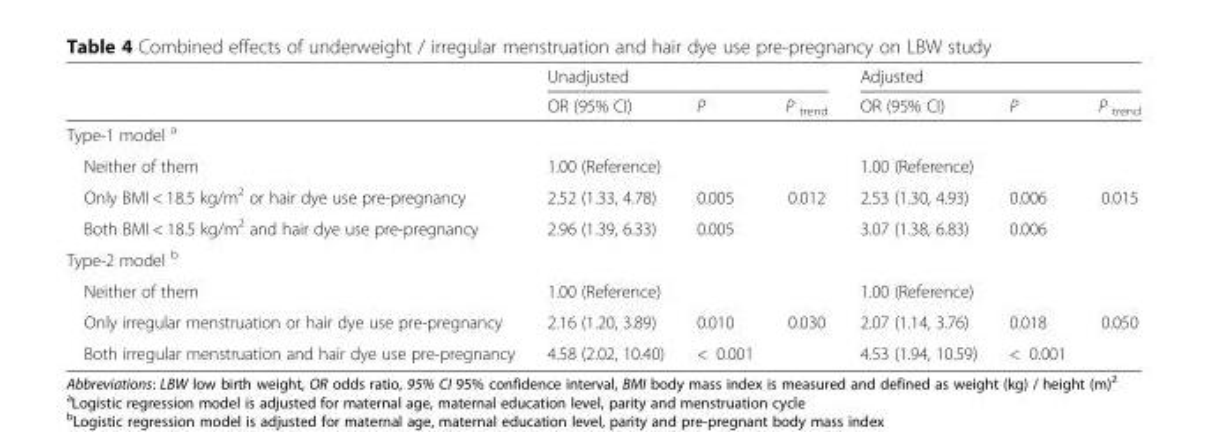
<table><thead><tr><td rowspan="2"></td><td colspan="3">Unadjusted</td><td colspan="3">Adjusted</td></tr><tr><td>OR (95% CI)</td><td>P</td><td>P <sub>trend</sub></td><td>OR (95% CI)</td><td>P</td><td>P <sub>trend</sub></td></tr></thead><tbody><tr><td colspan="7">Type-1 model <sup>a</sup></td></tr><tr><td>Neither of them</td><td>1.00 (Reference)</td><td></td><td></td><td>1.00 (Reference)</td><td></td><td></td></tr><tr><td>Only BMI &lt; 18.5 kg/m<sup>2</sup> or hair dye use pre-pregnancy</td><td>2.52 (1.33, 4.78)</td><td>0.005</td><td>0.012</td><td>2.53 (1.30, 4.93)</td><td>0.006</td><td>0.015</td></tr><tr><td>Both BMI &lt; 18.5 kg/m<sup>2</sup> and hair dye use pre-pregnancy</td><td>2.96 (1.39, 6.33)</td><td>0.005</td><td></td><td>3.07 (1.38, 6.83)</td><td>0.006</td><td></td></tr><tr><td colspan="7">Type-2 model <sup>b</sup></td></tr><tr><td>Neither of them</td><td>1.00 (Reference)</td><td></td><td></td><td>1.00 (Reference)</td><td></td><td></td></tr><tr><td>Only irregular menstruation or hair dye use pre-pregnancy</td><td>2.16 (1.20, 3.89)</td><td>0.010</td><td>0.030</td><td>2.07 (1.14, 3.76)</td><td>0.018</td><td>0.050</td></tr><tr><td>Both irregular menstruation and hair dye use pre-pregnancy</td><td>4.58 (2.02, 10.40)</td><td>&lt; 0.001</td><td></td><td>4.53 (1.94, 10.59)</td><td>&lt; 0.001</td><td></td></tr></tbody></table>